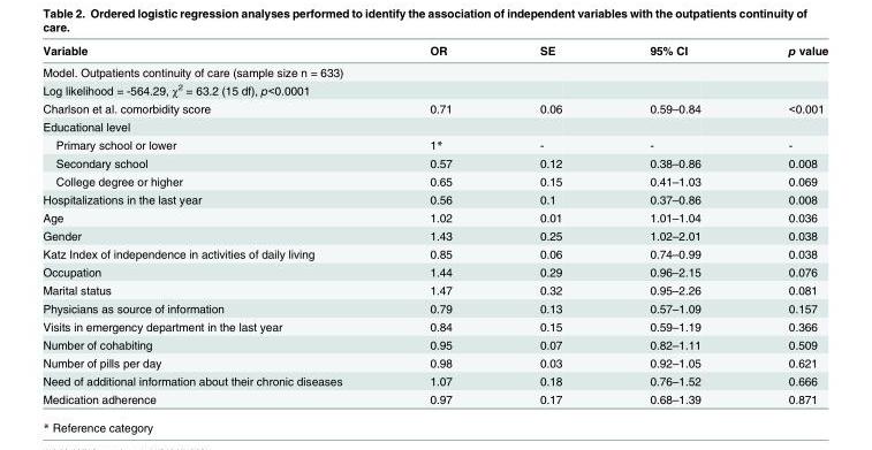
<table><thead><tr><td>Variable</td><td>OR</td><td>SE</td><td>95% CI</td><td>p value</td></tr></thead><tbody><tr><td colspan="5">Model. Outpatients continuity of care (sample size n = 633)</td></tr><tr><td colspan="5">Log likelihood = -564.29, χ<sup>2</sup> = 63.2 (15 df), p&lt;0.0001</td></tr><tr><td>Charlson et al. comorbidity score</td><td>0.71</td><td>0.06</td><td>0.59–0.84</td><td>&lt;0.001</td></tr><tr><td colspan="5">Educational level</td></tr><tr><td>Primary school or lower</td><td>1*</td><td>-</td><td>-</td><td>-</td></tr><tr><td>Secondary school</td><td>0.57</td><td>0.12</td><td>0.38–0.86</td><td>0.008</td></tr><tr><td>College degree or higher</td><td>0.65</td><td>0.15</td><td>0.41–1.03</td><td>0.069</td></tr><tr><td>Hospitalizations in the last year</td><td>0.56</td><td>0.1</td><td>0.37–0.86</td><td>0.008</td></tr><tr><td>Age</td><td>1.02</td><td>0.01</td><td>1.01–1.04</td><td>0.036</td></tr><tr><td>Gender</td><td>1.43</td><td>0.25</td><td>1.02–2.01</td><td>0.038</td></tr><tr><td>Katz Index of independence in activities of daily living</td><td>0.85</td><td>0.06</td><td>0.74–0.99</td><td>0.038</td></tr><tr><td>Occupation</td><td>1.44</td><td>0.29</td><td>0.96–2.15</td><td>0.076</td></tr><tr><td>Marital status</td><td>1.47</td><td>0.32</td><td>0.95–2.26</td><td>0.081</td></tr><tr><td>Physicians as source of information</td><td>0.79</td><td>0.13</td><td>0.57–1.09</td><td>0.157</td></tr><tr><td>Visits in emergency department in the last year</td><td>0.84</td><td>0.15</td><td>0.59–1.19</td><td>0.366</td></tr><tr><td>Number of cohabiting</td><td>0.95</td><td>0.07</td><td>0.82–1.11</td><td>0.509</td></tr><tr><td>Number of pills per day</td><td>0.98</td><td>0.03</td><td>0.92–1.05</td><td>0.621</td></tr><tr><td>Need of additional information about their chronic diseases</td><td>1.07</td><td>0.18</td><td>0.76–1.52</td><td>0.666</td></tr><tr><td>Medication adherence</td><td>0.97</td><td>0.17</td><td>0.68–1.39</td><td>0.871</td></tr></tbody></table>